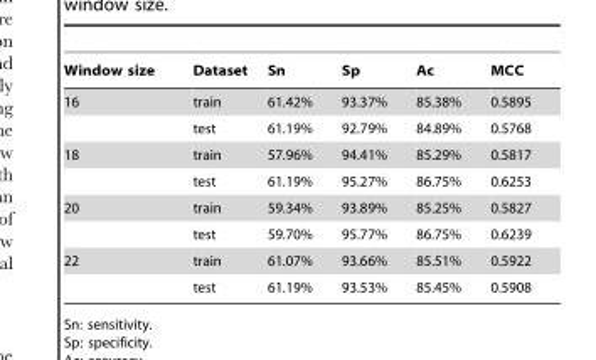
<table><thead><tr><td>Window size</td><td>Dataset</td><td>Sn</td><td>Sp</td><td>Ac</td><td>MCC</td></tr></thead><tbody><tr><td rowspan="2">16</td><td>train</td><td>61.42%</td><td>93.37%</td><td>85.38%</td><td>0.5895</td></tr><tr><td>test</td><td>61.19%</td><td>92.79%</td><td>84.89%</td><td>0.5768</td></tr><tr><td rowspan="2">18</td><td>train</td><td>57.96%</td><td>94.41%</td><td>85.29%</td><td>0.5817</td></tr><tr><td>test</td><td>61.19%</td><td>95.27%</td><td>86.75%</td><td>0.6253</td></tr><tr><td rowspan="2">20</td><td>train</td><td>59.34%</td><td>93.89%</td><td>85.25%</td><td>0.5827</td></tr><tr><td>test</td><td>59.70%</td><td>95.77%</td><td>86.75%</td><td>0.6239</td></tr><tr><td rowspan="2">22</td><td>train</td><td>61.07%</td><td>93.66%</td><td>85.51%</td><td>0.5922</td></tr><tr><td>test</td><td>61.19%</td><td>93.53%</td><td>85.45%</td><td>0.5908</td></tr></tbody></table>